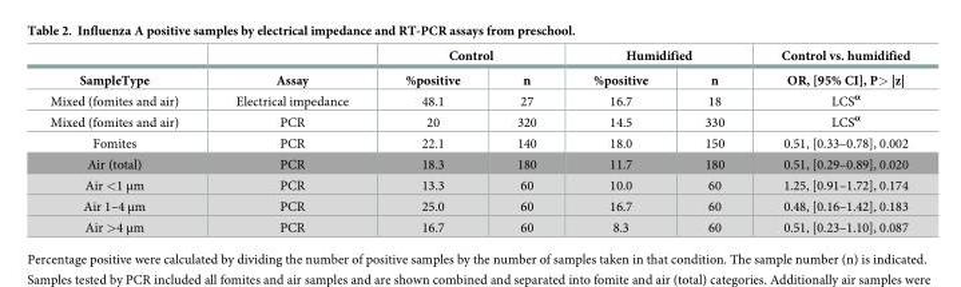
<table><thead><tr><td rowspan="2">SampleType</td><td rowspan="2">Assay</td><td colspan="2">Control</td><td colspan="2">Humidified</td><td rowspan="2">Control vs. humidified OR, [95% CI], P&gt; |z|</td></tr><tr><td>%positive</td><td>n</td><td>%positive</td><td>n</td></tr></thead><tbody><tr><td>Mixed (fomites and air)</td><td>Electrical impedance</td><td>48.1</td><td>27</td><td>16.7</td><td>18</td><td>LCS<sup>α</sup></td></tr><tr><td>Mixed (fomites and air)</td><td>PCR</td><td>20</td><td>320</td><td>14.5</td><td>330</td><td>LCS<sup>α</sup></td></tr><tr><td>Fomites</td><td>PCR</td><td>22.1</td><td>140</td><td>18.0</td><td>150</td><td>0.51, [0.33–0.78], 0.002</td></tr><tr><td>Air (total)</td><td>PCR</td><td>18.3</td><td>180</td><td>11.7</td><td>180</td><td>0.51, [0.29–0.89], 0.020</td></tr><tr><td>Air &lt;1 μm</td><td>PCR</td><td>13.3</td><td>60</td><td>10.0</td><td>60</td><td>1.25, [0.91–1.72], 0.174</td></tr><tr><td>Air 1–4 μm</td><td>PCR</td><td>25.0</td><td>60</td><td>16.7</td><td>60</td><td>0.48, [0.16–1.42], 0.183</td></tr><tr><td>Air &gt;4 μm</td><td>PCR</td><td>16.7</td><td>60</td><td>8.3</td><td>60</td><td>0.51, [0.23–1.10], 0.087</td></tr></tbody></table>